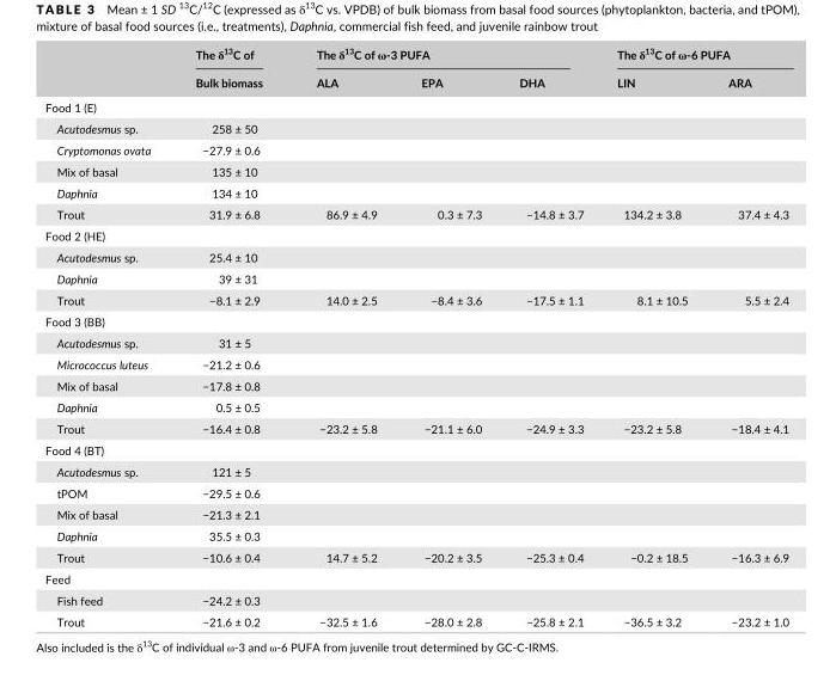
<table><thead><tr><td rowspan="2"></td><td rowspan="2">The δ<sup>13</sup>C of Bulk biomass</td><td colspan="3">The δ<sup>13</sup>C of ω- 3 PUFA</td><td colspan="2">The δ<sup>13</sup>C of ω- 6 PUFA</td></tr><tr><td>ALA</td><td>EPA</td><td>DHA</td><td>LIN</td><td>ARA</td></tr></thead><tbody><tr><td colspan="7">Food 1 (E)</td></tr><tr><td>Acutodesmus sp.</td><td>258 ± 50</td><td></td><td></td><td></td><td></td><td></td></tr><tr><td>Cryptomonas ovata</td><td>−27.9 ± 0.6</td><td></td><td></td><td></td><td></td><td></td></tr><tr><td>Mix of basal</td><td>135 ± 10</td><td></td><td></td><td></td><td></td><td></td></tr><tr><td>Daphnia</td><td>134 ± 10</td><td></td><td></td><td></td><td></td><td></td></tr><tr><td>Trout</td><td>31.9 ± 6.8</td><td>86.9 ± 4.9</td><td>0.3 ± 7.3</td><td>−14.8 ± 3.7</td><td>134.2 ± 3.8</td><td>37.4 ± 4.3</td></tr><tr><td colspan="7">Food 2 (HE)</td></tr><tr><td>Acutodesmus sp.</td><td>25.4 ± 10</td><td></td><td></td><td></td><td></td><td></td></tr><tr><td>Daphnia</td><td>39 ± 31</td><td></td><td></td><td></td><td></td><td></td></tr><tr><td>Trout</td><td>−8.1 ± 2.9</td><td>14.0 ± 2.5</td><td>−8.4 ± 3.6</td><td>−17.5 ± 1.1</td><td>8.1 ± 10.5</td><td>5.5 ± 2.4</td></tr><tr><td colspan="7">Food 3 (BB)</td></tr><tr><td>Acutodesmus sp.</td><td>31 ± 5</td><td></td><td></td><td></td><td></td><td></td></tr><tr><td>Micrococcus luteus</td><td>−21.2 ± 0.6</td><td></td><td></td><td></td><td></td><td></td></tr><tr><td>Mix of basal</td><td>−17.8 ± 0.8</td><td></td><td></td><td></td><td></td><td></td></tr><tr><td>Daphnia</td><td>0.5 ± 0.5</td><td></td><td></td><td></td><td></td><td></td></tr><tr><td>Trout</td><td>−16.4 ± 0.8</td><td>−23.2 ± 5.8</td><td>−21.1 ± 6.0</td><td>−24.9 ± 3.3</td><td>−23.2 ± 5.8</td><td>−18.4 ± 4.1</td></tr><tr><td colspan="7">Food 4 (BT)</td></tr><tr><td>Acutodesmus sp.</td><td>121 ± 5</td><td></td><td></td><td></td><td></td><td></td></tr><tr><td>tPOM</td><td>−29.5 ± 0.6</td><td></td><td></td><td></td><td></td><td></td></tr><tr><td>Mix of basal</td><td>−21.3 ± 2.1</td><td></td><td></td><td></td><td></td><td></td></tr><tr><td>Daphnia</td><td>35.5 ± 0.3</td><td></td><td></td><td></td><td></td><td></td></tr><tr><td>Trout</td><td>−10.6 ± 0.4</td><td>14.7 ± 5.2</td><td>−20.2 ± 3.5</td><td>−25.3 ± 0.4</td><td>−0.2 ± 18.5</td><td>−16.3 ± 6.9</td></tr><tr><td colspan="7">Feed</td></tr><tr><td>Fish feed</td><td>−24.2 ± 0.3</td><td></td><td></td><td></td><td></td><td></td></tr><tr><td>Trout</td><td>−21.6 ± 0.2</td><td>−32.5 ± 1.6</td><td>−28.0 ± 2.8</td><td>−25.8 ± 2.1</td><td>−36.5 ± 3.2</td><td>−23.2 ± 1.0</td></tr></tbody></table>